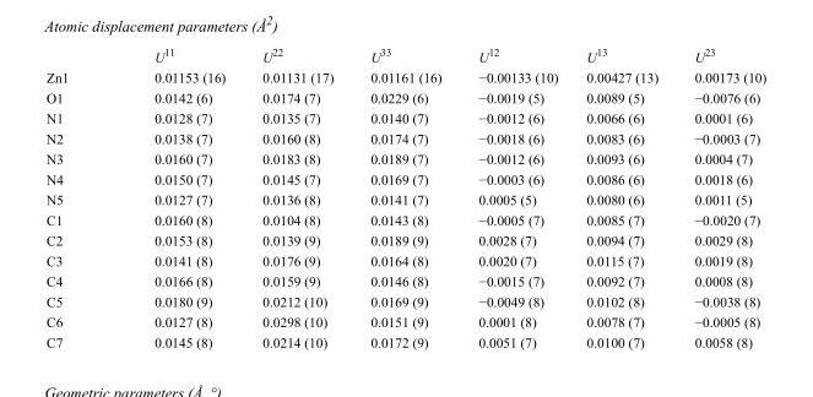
<table><thead><tr><td></td><td>U<sup>11</sup></td><td>U<sup>22</sup></td><td>U<sup>33</sup></td><td>U<sup>12</sup></td><td>U<sup>13</sup></td><td>U<sup>23</sup></td></tr></thead><tbody><tr><td>Zn1</td><td>0.01153 (16)</td><td>0.01131 (17)</td><td>0.01161 (16)</td><td>−0.00133 (10)</td><td>0.00427 (13)</td><td>0.00173 (10)</td></tr><tr><td>O1</td><td>0.0142 (6)</td><td>0.0174 (7)</td><td>0.0229 (6)</td><td>−0.0019 (5)</td><td>0.0089 (5)</td><td>−0.0076 (6)</td></tr><tr><td>N1</td><td>0.0128 (7)</td><td>0.0135 (7)</td><td>0.0140 (7)</td><td>−0.0012 (6)</td><td>0.0066 (6)</td><td>0.0001 (6)</td></tr><tr><td>N2</td><td>0.0138 (7)</td><td>0.0160 (8)</td><td>0.0174 (7)</td><td>−0.0018 (6)</td><td>0.0083 (6)</td><td>−0.0003 (7)</td></tr><tr><td>N3</td><td>0.0160 (7)</td><td>0.0183 (8)</td><td>0.0189 (7)</td><td>−0.0012 (6)</td><td>0.0093 (6)</td><td>0.0004 (7)</td></tr><tr><td>N4</td><td>0.0150 (7)</td><td>0.0145 (7)</td><td>0.0169 (7)</td><td>−0.0003 (6)</td><td>0.0086 (6)</td><td>0.0018 (6)</td></tr><tr><td>N5</td><td>0.0127 (7)</td><td>0.0136 (8)</td><td>0.0141 (7)</td><td>0.0005 (5)</td><td>0.0080 (6)</td><td>0.0011 (5)</td></tr><tr><td>C1</td><td>0.0160 (8)</td><td>0.0104 (8)</td><td>0.0143 (8)</td><td>−0.0005 (7)</td><td>0.0085 (7)</td><td>−0.0020 (7)</td></tr><tr><td>C2</td><td>0.0153 (8)</td><td>0.0139 (9)</td><td>0.0189 (9)</td><td>0.0028 (7)</td><td>0.0094 (7)</td><td>0.0029 (8)</td></tr><tr><td>C3</td><td>0.0141 (8)</td><td>0.0176 (9)</td><td>0.0164 (8)</td><td>0.0020 (7)</td><td>0.0115 (7)</td><td>0.0019 (8)</td></tr><tr><td>C4</td><td>0.0166 (8)</td><td>0.0159 (9)</td><td>0.0146 (8)</td><td>−0.0015 (7)</td><td>0.0092 (7)</td><td>0.0008 (8)</td></tr><tr><td>C5</td><td>0.0180 (9)</td><td>0.0212 (10)</td><td>0.0169 (9)</td><td>−0.0049 (8)</td><td>0.0102 (8)</td><td>−0.0038 (8)</td></tr><tr><td>C6</td><td>0.0127 (8)</td><td>0.0298 (10)</td><td>0.0151 (9)</td><td>0.0001 (8)</td><td>0.0078 (7)</td><td>−0.0005 (8)</td></tr><tr><td>C7</td><td>0.0145 (8)</td><td>0.0214 (10)</td><td>0.0172 (9)</td><td>0.0051 (7)</td><td>0.0100 (7)</td><td>0.0058 (8)</td></tr></tbody></table>